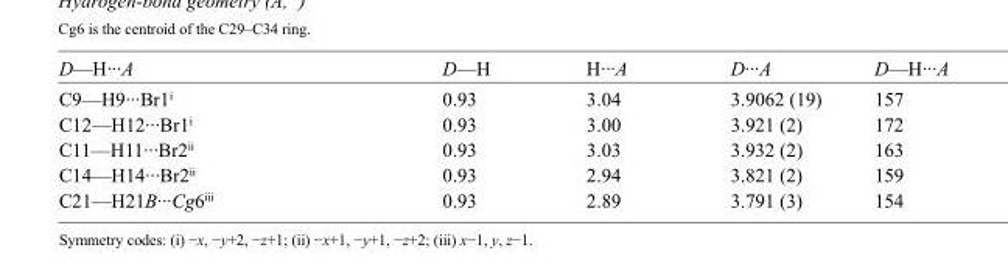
<table><tbody><tr><td>D—H···A</td><td>D—H</td><td>H···A</td><td>D···A</td><td>D—H···A</td></tr><tr><td>C9—H9···Br1<sup>i</sup></td><td>0.93</td><td>3.04</td><td>3.9062 (19)</td><td>157</td></tr><tr><td>C12—H12···Br1<sup>i</sup></td><td>0.93</td><td>3.00</td><td>3.921 (2)</td><td>172</td></tr><tr><td>C11—H11···Br2<sup>ii</sup></td><td>0.93</td><td>3.03</td><td>3.932 (2)</td><td>163</td></tr><tr><td>C14—H14···Br2<sup>ii</sup></td><td>0.93</td><td>2.94</td><td>3.821 (2)</td><td>159</td></tr><tr><td>C21—H21B···Cg6<sup>iii</sup></td><td>0.93</td><td>2.89</td><td>3.791 (3)</td><td>154</td></tr></tbody></table>